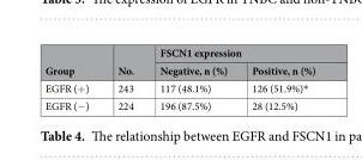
<table><thead><tr><td rowspan="2">Group</td><td rowspan="2">No.</td><td colspan="2">FSCN1 expression</td></tr><tr><td>Negative, n (%)</td><td>Positive, n (%)</td></tr></thead><tbody><tr><td>EGFR (+)</td><td>243</td><td>117 (48.1%)</td><td>126 (51.9%)*</td></tr><tr><td>EGFR (−)</td><td>224</td><td>196 (87.5%)</td><td>28 (12.5%)</td></tr></tbody></table>